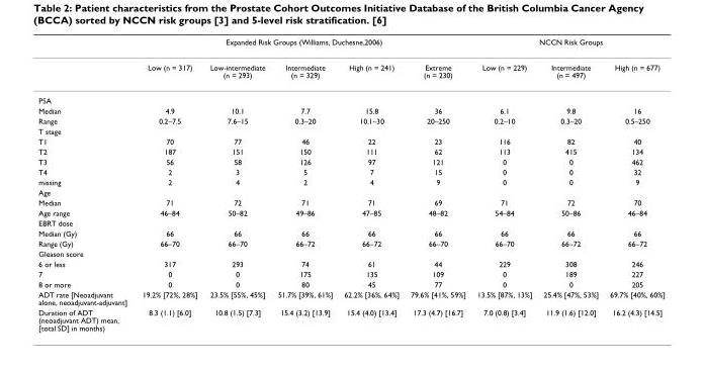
<table><thead><tr><td rowspan="2"></td><td colspan="5">Expanded Risk Groups (Williams, Duchesne,2006)</td><td colspan="3">NCCN Risk Groups</td></tr><tr><td>Low (n = 317)</td><td>Low-intermediate (n = 293)</td><td>Intermediate (n = 329)</td><td>High (n = 241)</td><td>Extreme (n = 230)</td><td>Low (n = 229)</td><td>Intermediate (n = 497)</td><td>High (n = 677)</td></tr></thead><tbody><tr><td colspan="9">PSA</td></tr><tr><td>Median</td><td>4.9</td><td>10.1</td><td>7.7</td><td>15.8</td><td>36</td><td>6.1</td><td>9.8</td><td>16</td></tr><tr><td>Range</td><td>0.2–7.5</td><td>7.6–15</td><td>0.3–20</td><td>10.1–30</td><td>20–250</td><td>0.2–10</td><td>0.3–20</td><td>0.5–250</td></tr><tr><td colspan="9">T stage</td></tr><tr><td>T1</td><td>70</td><td>77</td><td>46</td><td>22</td><td>23</td><td>116</td><td>82</td><td>40</td></tr><tr><td>T2</td><td>187</td><td>151</td><td>150</td><td>111</td><td>62</td><td>113</td><td>415</td><td>134</td></tr><tr><td>T3</td><td>56</td><td>58</td><td>126</td><td>97</td><td>121</td><td>0</td><td>0</td><td>462</td></tr><tr><td>T4</td><td>2</td><td>3</td><td>5</td><td>7</td><td>15</td><td>0</td><td>0</td><td>32</td></tr><tr><td>missing</td><td>2</td><td>4</td><td>2</td><td>4</td><td>9</td><td>0</td><td>0</td><td>9</td></tr><tr><td colspan="9">Age</td></tr><tr><td>Median</td><td>71</td><td>72</td><td>71</td><td>71</td><td>69</td><td>71</td><td>72</td><td>70</td></tr><tr><td>Age range</td><td>46–84</td><td>50–82</td><td>49–86</td><td>47–85</td><td>48–82</td><td>54–84</td><td>50–86</td><td>46–84</td></tr><tr><td colspan="9">EBRT dose</td></tr><tr><td>Median (Gy)</td><td>66</td><td>66</td><td>66</td><td>66</td><td>66</td><td>66</td><td>66</td><td>66</td></tr><tr><td>Range (Gy)</td><td>66–70</td><td>66–70</td><td>66–72</td><td>66–72</td><td>66–70</td><td>66–70</td><td>66–72</td><td>66–72</td></tr><tr><td colspan="9">Gleason score</td></tr><tr><td>6 or less</td><td>317</td><td>293</td><td>74</td><td>61</td><td>44</td><td>229</td><td>308</td><td>246</td></tr><tr><td>7</td><td>0</td><td>0</td><td>175</td><td>135</td><td>109</td><td>0</td><td>189</td><td>227</td></tr><tr><td>8 or more</td><td>0</td><td>0</td><td>80</td><td>45</td><td>77</td><td>0</td><td>0</td><td>205</td></tr><tr><td>ADT rate [Neoadjuvant alone, neoadjuvant-adjuvant]</td><td>19.2% [72%, 28%]</td><td>23.5% [55%, 45%]</td><td>51.7% [39%, 61%]</td><td>62.2% [36%, 64%]</td><td>79.6% [41%, 59%]</td><td>13.5% [87%, 13%]</td><td>25.4% [47%, 53%]</td><td>69.7% [40%, 60%]</td></tr><tr><td>Duration of ADT (neoadjuvant ADT) mean, [total SD] in months)</td><td>8.3 (1.1) [6.0]</td><td>10.8 (1.5) [7.3]</td><td>15.4 (3.2) [13.9]</td><td>15.4 (4.0) [13.4]</td><td>17.3 (4.7) [16.7]</td><td>7.0 (0.8) [3.4]</td><td>11.9 (1.6) [12.0]</td><td>16.2 (4.3) [14.5]</td></tr></tbody></table>